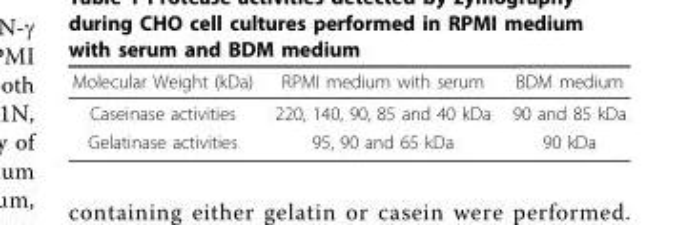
<table><thead><tr><td>Molecular Weight (kDa)</td><td>RPMI medium with serum</td><td>BDM medium</td></tr></thead><tbody><tr><td>Caseinase activities</td><td>220, 140, 90, 85 and 40 kDa</td><td>90 and 85 kDa</td></tr><tr><td>Gelatinase activities</td><td>95, 90 and 65 kDa</td><td>90 kDa</td></tr></tbody></table>